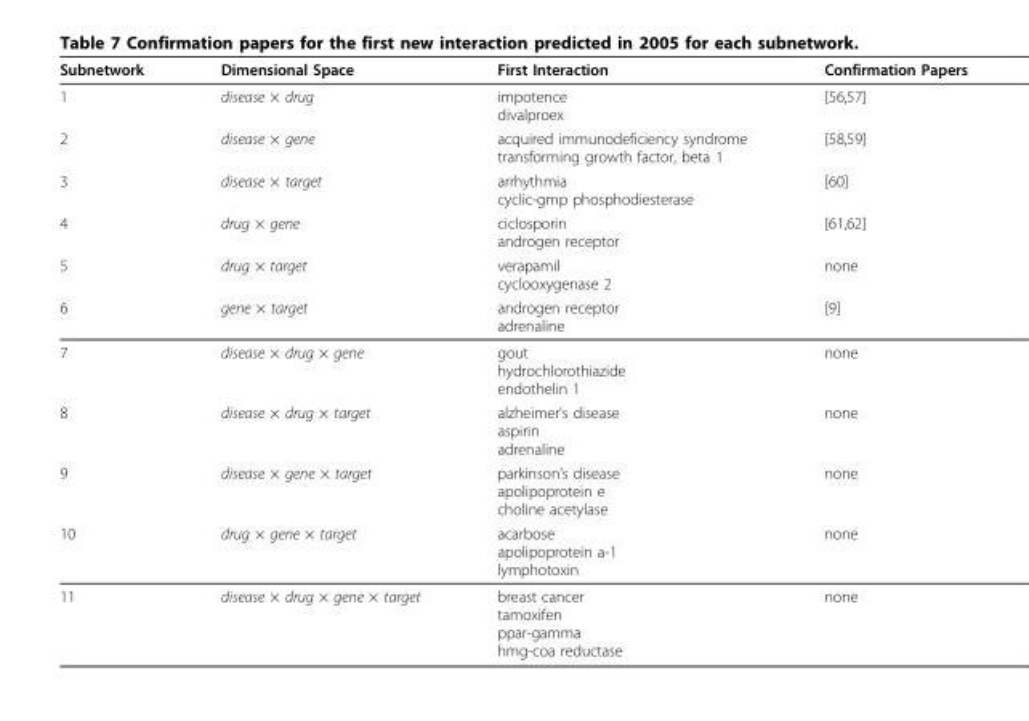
<table><thead><tr><td>Subnetwork</td><td>Dimensional Space</td><td>First Interaction</td><td>Confirmation Papers</td></tr></thead><tbody><tr><td>1</td><td>disease × drug</td><td>impotence divalproex</td><td>[56,57]</td></tr><tr><td>2</td><td>disease × gene</td><td>acquired immunodeficiency syndrome transforming growth factor, beta 1</td><td>[58,59]</td></tr><tr><td>3</td><td>disease × target</td><td>arrhythmia cyclic-gmp phosphodiesterase</td><td>[60]</td></tr><tr><td>4</td><td>drug × gene</td><td>ciclosporin androgen receptor</td><td>[61,62]</td></tr><tr><td>5</td><td>drug × target</td><td>verapamil cyclooxygenase 2</td><td>none</td></tr><tr><td>6</td><td>gene × target</td><td>androgen receptor adrenaline</td><td>[9]</td></tr><tr><td>7</td><td>disease × drug × gene</td><td>gout hydrochlorothiazide endothelin 1</td><td>none</td></tr><tr><td>8</td><td>disease × drug × target</td><td>alzheimer’s disease aspirin adrenaline</td><td>none</td></tr><tr><td>9</td><td>disease × gene × target</td><td>parkinson’s disease apolipoprotein e choline acetylase</td><td>none</td></tr><tr><td>10</td><td>drug × gene × target</td><td>acarbose apolipoprotein a-1 lymphotoxin</td><td>none</td></tr><tr><td>11</td><td>disease × drug × gene × target</td><td>breast cancer tamoxifen ppar-gamma hmg-coa reductase</td><td>none</td></tr></tbody></table>